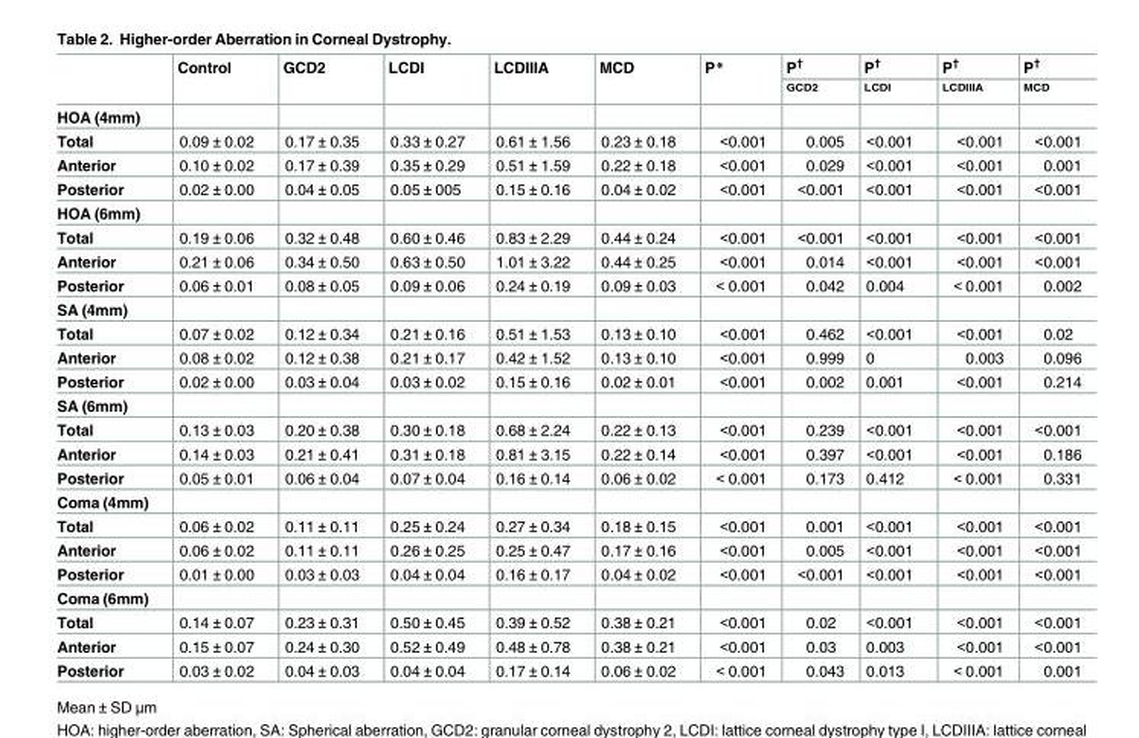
<table><thead><tr><td rowspan="2"></td><td rowspan="2">Control</td><td rowspan="2">GCD2</td><td rowspan="2">LCDI</td><td rowspan="2">LCDIIIA</td><td rowspan="2">MCD</td><td rowspan="2">P*</td><td rowspan="2">P† GCD2</td><td rowspan="2">P† LCDI</td><td rowspan="2">P† LCDIIIA</td><td rowspan="2">P† MCD</td></tr><tr></tr></thead><tbody><tr><td colspan="11">HOA (4mm)</td></tr><tr><td>Total</td><td>0.09 ± 0.02</td><td>0.17 ± 0.35</td><td>0.33 ± 0.27</td><td>0.61 ± 1.56</td><td>0.23 ± 0.18</td><td>&lt;0.001</td><td>0.005</td><td>&lt;0.001</td><td>&lt;0.001</td><td>&lt;0.001</td></tr><tr><td>Anterior</td><td>0.10 ± 0.02</td><td>0.17 ± 0.39</td><td>0.35 ± 0.29</td><td>0.51 ± 1.59</td><td>0.22 ± 0.18</td><td>&lt;0.001</td><td>0.029</td><td>&lt;0.001</td><td>&lt;0.001</td><td>0.001</td></tr><tr><td>Posterior</td><td>0.02 ± 0.00</td><td>0.04 ± 0.05</td><td>0.05 ± 005</td><td>0.15 ± 0.16</td><td>0.04 ± 0.02</td><td>&lt;0.001</td><td>&lt;0.001</td><td>&lt;0.001</td><td>&lt;0.001</td><td>&lt;0.001</td></tr><tr><td colspan="11">HOA (6mm)</td></tr><tr><td>Total</td><td>0.19 ± 0.06</td><td>0.32 ± 0.48</td><td>0.60 ± 0.46</td><td>0.83 ± 2.29</td><td>0.44 ± 0.24</td><td>&lt;0.001</td><td>&lt;0.001</td><td>&lt;0.001</td><td>&lt;0.001</td><td>&lt;0.001</td></tr><tr><td>Anterior</td><td>0.21 ± 0.06</td><td>0.34 ± 0.50</td><td>0.63 ± 0.50</td><td>1.01 ± 3.22</td><td>0.44 ± 0.25</td><td>&lt;0.001</td><td>0.014</td><td>&lt;0.001</td><td>&lt;0.001</td><td>&lt;0.001</td></tr><tr><td>Posterior</td><td>0.06 ± 0.01</td><td>0.08 ± 0.05</td><td>0.09 ± 0.06</td><td>0.24 ± 0.19</td><td>0.09 ± 0.03</td><td>&lt; 0.001</td><td>0.042</td><td>0.004</td><td>&lt; 0.001</td><td>0.002</td></tr><tr><td colspan="11">SA (4mm)</td></tr><tr><td>Total</td><td>0.07 ± 0.02</td><td>0.12 ± 0.34</td><td>0.21 ± 0.16</td><td>0.51 ± 1.53</td><td>0.13 ± 0.10</td><td>&lt;0.001</td><td>0.462</td><td>&lt;0.001</td><td>&lt;0.001</td><td>0.02</td></tr><tr><td>Anterior</td><td>0.08 ± 0.02</td><td>0.12 ± 0.38</td><td>0.21 ± 0.17</td><td>0.42 ± 1.52</td><td>0.13 ± 0.10</td><td>&lt;0.001</td><td>0.999</td><td>0</td><td>0.003</td><td>0.096</td></tr><tr><td>Posterior</td><td>0.02 ± 0.00</td><td>0.03 ± 0.04</td><td>0.03 ± 0.02</td><td>0.15 ± 0.16</td><td>0.02 ± 0.01</td><td>&lt;0.001</td><td>0.002</td><td>0.001</td><td>&lt;0.001</td><td>0.214</td></tr><tr><td colspan="11">SA (6mm)</td></tr><tr><td>Total</td><td>0.13 ± 0.03</td><td>0.20 ± 0.38</td><td>0.30 ± 0.18</td><td>0.68 ± 2.24</td><td>0.22 ± 0.13</td><td>&lt;0.001</td><td>0.239</td><td>&lt;0.001</td><td>&lt;0.001</td><td>&lt;0.001</td></tr><tr><td>Anterior</td><td>0.14 ± 0.03</td><td>0.21 ± 0.41</td><td>0.31 ± 0.18</td><td>0.81 ± 3.15</td><td>0.22 ± 0.14</td><td>&lt;0.001</td><td>0.397</td><td>&lt;0.001</td><td>&lt;0.001</td><td>0.186</td></tr><tr><td>Posterior</td><td>0.05 ± 0.01</td><td>0.06 ± 0.04</td><td>0.07 ± 0.04</td><td>0.16 ± 0.14</td><td>0.06 ± 0.02</td><td>&lt; 0.001</td><td>0.173</td><td>0.412</td><td>&lt; 0.001</td><td>0.331</td></tr><tr><td colspan="11">Coma (4mm)</td></tr><tr><td>Total</td><td>0.06 ± 0.02</td><td>0.11 ± 0.11</td><td>0.25 ± 0.24</td><td>0.27 ± 0.34</td><td>0.18 ± 0.15</td><td>&lt;0.001</td><td>0.001</td><td>&lt;0.001</td><td>&lt;0.001</td><td>&lt;0.001</td></tr><tr><td>Anterior</td><td>0.06 ± 0.02</td><td>0.11 ± 0.11</td><td>0.26 ± 0.25</td><td>0.25 ± 0.47</td><td>0.17 ± 0.16</td><td>&lt;0.001</td><td>0.005</td><td>&lt;0.001</td><td>&lt;0.001</td><td>&lt;0.001</td></tr><tr><td>Posterior</td><td>0.01 ± 0.00</td><td>0.03 ± 0.03</td><td>0.04 ± 0.04</td><td>0.16 ± 0.17</td><td>0.04 ± 0.02</td><td>&lt;0.001</td><td>&lt;0.001</td><td>&lt;0.001</td><td>&lt;0.001</td><td>&lt;0.001</td></tr><tr><td colspan="11">Coma (6mm)</td></tr><tr><td>Total</td><td>0.14 ± 0.07</td><td>0.23 ± 0.31</td><td>0.50 ± 0.45</td><td>0.39 ± 0.52</td><td>0.38 ± 0.21</td><td>&lt;0.001</td><td>0.02</td><td>&lt;0.001</td><td>&lt;0.001</td><td>&lt;0.001</td></tr><tr><td>Anterior</td><td>0.15 ± 0.07</td><td>0.24 ± 0.30</td><td>0.52 ± 0.49</td><td>0.48 ± 0.78</td><td>0.38 ± 0.21</td><td>&lt;0.001</td><td>0.03</td><td>0.003</td><td>&lt;0.001</td><td>&lt;0.001</td></tr><tr><td>Posterior</td><td>0.03 ± 0.02</td><td>0.04 ± 0.03</td><td>0.04 ± 0.04</td><td>0.17 ± 0.14</td><td>0.06 ± 0.02</td><td>&lt; 0.001</td><td>0.043</td><td>0.013</td><td>&lt; 0.001</td><td>0.001</td></tr></tbody></table>